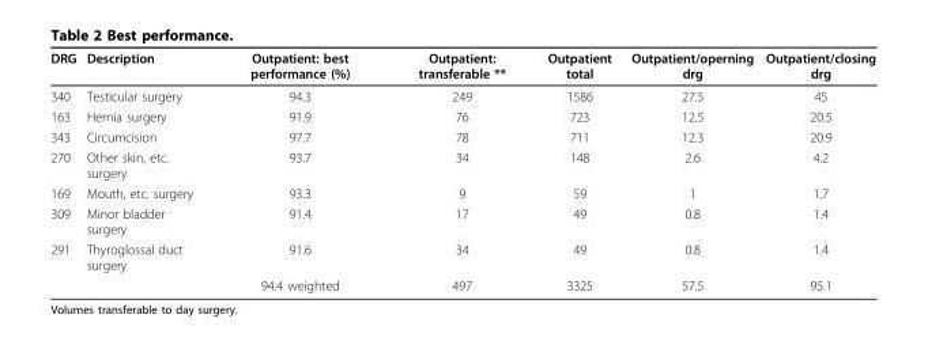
<table><thead><tr><td>DRG</td><td>Description</td><td>Outpatient: best performance (%)</td><td>Outpatient: transferable **</td><td>Outpatient total</td><td>Outpatient/operning drg</td><td>Outpatient/closing drg</td></tr></thead><tbody><tr><td>340</td><td>Testicular surgery</td><td>94.3</td><td>249</td><td>1586</td><td>27.5</td><td>45</td></tr><tr><td>163</td><td>Hernia surgery</td><td>91.9</td><td>76</td><td>723</td><td>12.5</td><td>20.5</td></tr><tr><td>343</td><td>Circumcision</td><td>97.7</td><td>78</td><td>711</td><td>12.3</td><td>20.9</td></tr><tr><td>270</td><td>Other skin, etc. surgery</td><td>93.7</td><td>34</td><td>148</td><td>2.6</td><td>4.2</td></tr><tr><td>169</td><td>Mouth, etc. surgery</td><td>93.3</td><td>9</td><td>59</td><td>1</td><td>1.7</td></tr><tr><td>309</td><td>Minor bladder surgery</td><td>91.4</td><td>17</td><td>49</td><td>0.8</td><td>1.4</td></tr><tr><td rowspan="2">291</td><td>Thyroglossal duct surgery</td><td>91.6</td><td>34</td><td>49</td><td>0.8</td><td>1.4</td></tr><tr><td></td><td>94.4 weighted</td><td>497</td><td>3325</td><td>57.5</td><td>95.1</td></tr></tbody></table>